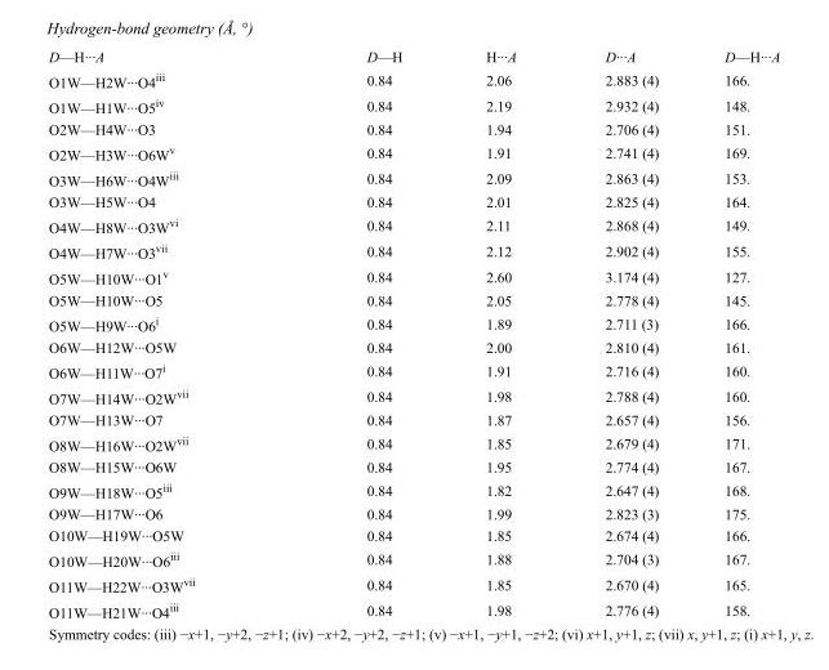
<table><tbody><tr><td>D—H···A</td><td>D—H</td><td>H···A</td><td>D···A</td><td>D—H···A</td></tr><tr><td>O1W—H2W···O4<sup>iii</sup></td><td>0.84</td><td>2.06</td><td>2.883 (4)</td><td>166.</td></tr><tr><td>O1W—H1W···O5<sup>iv</sup></td><td>0.84</td><td>2.19</td><td>2.932 (4)</td><td>148.</td></tr><tr><td>O2W—H4W···O3</td><td>0.84</td><td>1.94</td><td>2.706 (4)</td><td>151.</td></tr><tr><td>O2W—H3W···O6W<sup>v</sup></td><td>0.84</td><td>1.91</td><td>2.741 (4)</td><td>169.</td></tr><tr><td>O3W—H6W···O4W<sup>iii</sup></td><td>0.84</td><td>2.09</td><td>2.863 (4)</td><td>153.</td></tr><tr><td>O3W—H5W···O4</td><td>0.84</td><td>2.01</td><td>2.825 (4)</td><td>164.</td></tr><tr><td>O4W—H8W···O3W<sup>vi</sup></td><td>0.84</td><td>2.11</td><td>2.868 (4)</td><td>149.</td></tr><tr><td>O4W—H7W···O3<sup>vii</sup></td><td>0.84</td><td>2.12</td><td>2.902 (4)</td><td>155.</td></tr><tr><td>O5W—H10W···O1<sup>v</sup></td><td>0.84</td><td>2.60</td><td>3.174 (4)</td><td>127.</td></tr><tr><td>O5W—H10W···O5</td><td>0.84</td><td>2.05</td><td>2.778 (4)</td><td>145.</td></tr><tr><td>O5W—H9W···O6<sup>i</sup></td><td>0.84</td><td>1.89</td><td>2.711 (3)</td><td>166.</td></tr><tr><td>O6W—H12W···O5W</td><td>0.84</td><td>2.00</td><td>2.810 (4)</td><td>161.</td></tr><tr><td>O6W—H11W···O7<sup>i</sup></td><td>0.84</td><td>1.91</td><td>2.716 (4)</td><td>160.</td></tr><tr><td>O7W—H14W···O2W<sup>vii</sup></td><td>0.84</td><td>1.98</td><td>2.788 (4)</td><td>160.</td></tr><tr><td>O7W—H13W···O7</td><td>0.84</td><td>1.87</td><td>2.657 (4)</td><td>156.</td></tr><tr><td>O8W—H16W···O2W<sup>vii</sup></td><td>0.84</td><td>1.85</td><td>2.679 (4)</td><td>171.</td></tr><tr><td>O8W—H15W···O6W</td><td>0.84</td><td>1.95</td><td>2.774 (4)</td><td>167.</td></tr><tr><td>O9W—H18W···O5<sup>iii</sup></td><td>0.84</td><td>1.82</td><td>2.647 (4)</td><td>168.</td></tr><tr><td>O9W—H17W···O6</td><td>0.84</td><td>1.99</td><td>2.823 (3)</td><td>175.</td></tr><tr><td>O10W—H19W···O5W</td><td>0.84</td><td>1.85</td><td>2.674 (4)</td><td>166.</td></tr><tr><td>O10W—H20W···O6<sup>iii</sup></td><td>0.84</td><td>1.88</td><td>2.704 (3)</td><td>167.</td></tr><tr><td>O11W—H22W···O3W<sup>vii</sup></td><td>0.84</td><td>1.85</td><td>2.670 (4)</td><td>165.</td></tr><tr><td>O11W—H21W···O4<sup>iii</sup></td><td>0.84</td><td>1.98</td><td>2.776 (4)</td><td>158.</td></tr></tbody></table>